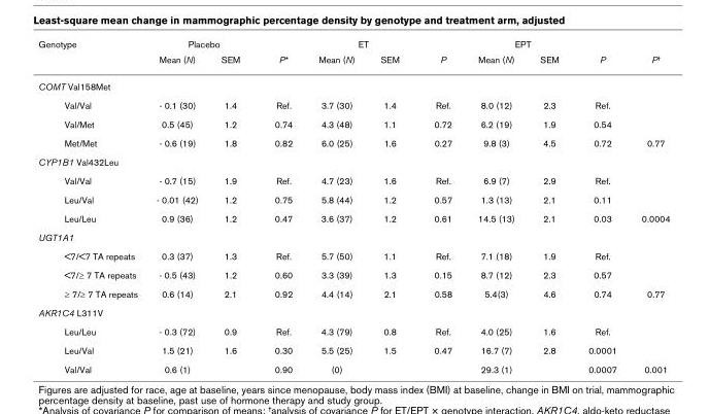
<table><thead><tr><td rowspan="2">Genotype</td><td colspan="2">Placebo</td><td rowspan="2">P*</td><td colspan="2">ET</td><td rowspan="2">P</td><td colspan="2">EPT</td><td rowspan="2">P</td><td rowspan="2">P†</td></tr><tr><td>Mean (N)</td><td>SEM</td><td>Mean (N)</td><td>SEM</td><td>Mean (N)</td><td>SEM</td></tr></thead><tbody><tr><td colspan="11">COMT Val158Met</td></tr><tr><td>Val/Val</td><td>- 0.1 (30)</td><td>1.4</td><td>Ref.</td><td>3.7 (30)</td><td>1.4</td><td>Ref.</td><td>8.0 (12)</td><td>2.3</td><td>Ref.</td><td></td></tr><tr><td>Val/Met</td><td>0.5 (45)</td><td>1.2</td><td>0.74</td><td>4.3 (48)</td><td>1.1</td><td>0.72</td><td>6.2 (19)</td><td>1.9</td><td>0.54</td><td></td></tr><tr><td>Met/Met</td><td>- 0.6 (19)</td><td>1.8</td><td>0.82</td><td>6.0 (25)</td><td>1.6</td><td>0.27</td><td>9.8 (3)</td><td>4.5</td><td>0.72</td><td>0.77</td></tr><tr><td colspan="11">CYP1B1 Val432Leu</td></tr><tr><td>Val/Val</td><td>- 0.7 (15)</td><td>1.9</td><td>Ref.</td><td>4.7 (23)</td><td>1.6</td><td>Ref.</td><td>6.9 (7)</td><td>2.9</td><td>Ref.</td><td></td></tr><tr><td>Leu/Val</td><td>- 0.01 (42)</td><td>1.2</td><td>0.75</td><td>5.8 (44)</td><td>1.2</td><td>0.57</td><td>1.3 (13)</td><td>2.1</td><td>0.11</td><td></td></tr><tr><td>Leu/Leu</td><td>0.9 (36)</td><td>1.2</td><td>0.47</td><td>3.6 (37)</td><td>1.2</td><td>0.61</td><td>14.5 (13)</td><td>2.1</td><td>0.03</td><td>0.0004</td></tr><tr><td colspan="11">UGT1A1</td></tr><tr><td>&lt;7/&lt;7 TA repeats</td><td>0.3 (37)</td><td>1.3</td><td>Ref.</td><td>5.7 (50)</td><td>1.1</td><td>Ref.</td><td>7.1 (18)</td><td>1.9</td><td>Ref.</td><td></td></tr><tr><td>&lt;7/≥ 7 TA repeats</td><td>- 0.5 (43)</td><td>1.2</td><td>0.60</td><td>3.3 (39)</td><td>1.3</td><td>0.15</td><td>8.7 (12)</td><td>2.3</td><td>0.57</td><td></td></tr><tr><td>≥ 7/≥ 7 TA repeats</td><td>0.6 (14)</td><td>2.1</td><td>0.92</td><td>4.4 (14)</td><td>2.1</td><td>0.58</td><td>5.4(3)</td><td>4.6</td><td>0.74</td><td>0.77</td></tr><tr><td colspan="11">AKR1C4 L311V</td></tr><tr><td>Leu/Leu</td><td>- 0.3 (72)</td><td>0.9</td><td>Ref.</td><td>4.3 (79)</td><td>0.8</td><td>Ref.</td><td>4.0 (25)</td><td>1.6</td><td>Ref.</td><td></td></tr><tr><td>Leu/Val</td><td>1.5 (21)</td><td>1.6</td><td>0.30</td><td>5.5 (25)</td><td>1.5</td><td>0.47</td><td>16.7 (7)</td><td>2.8</td><td>0.0001</td><td></td></tr><tr><td>Val/Val</td><td>0.6 (1)</td><td></td><td>0.90</td><td>(0)</td><td></td><td></td><td>29.3 (1)</td><td></td><td>0.0007</td><td>0.001</td></tr></tbody></table>